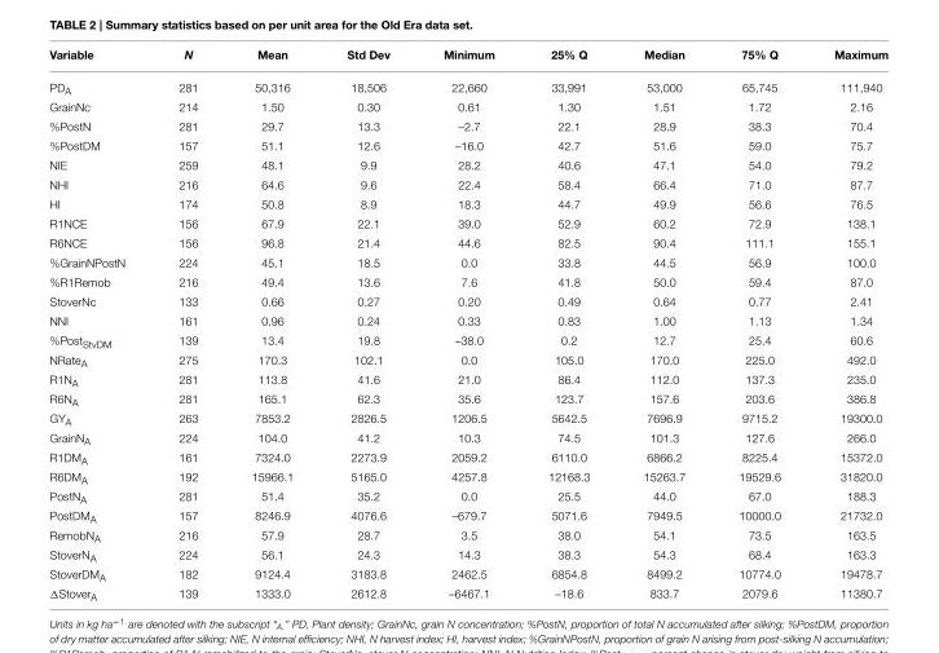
<table><thead><tr><td>Variable</td><td>N</td><td>Mean</td><td>Std Dev</td><td>Minimum</td><td>25% Q</td><td>Median</td><td>75% Q</td><td>Maximum</td></tr></thead><tbody><tr><td>PD<sub>A</sub></td><td>281</td><td>50,316</td><td>18,506</td><td>22,660</td><td>33,991</td><td>53,000</td><td>65,745</td><td>111,940</td></tr><tr><td>GrainNc</td><td>214</td><td>1.50</td><td>0.30</td><td>0.61</td><td>1.30</td><td>1.51</td><td>1.72</td><td>2.16</td></tr><tr><td>%PostN</td><td>281</td><td>29.7</td><td>13.3</td><td>–2.7</td><td>22.1</td><td>28.9</td><td>38.3</td><td>70.4</td></tr><tr><td>%PostDM</td><td>157</td><td>51.1</td><td>12.6</td><td>–16.0</td><td>42.7</td><td>51.6</td><td>59.0</td><td>75.7</td></tr><tr><td>NIE</td><td>259</td><td>48.1</td><td>9.9</td><td>28.2</td><td>40.6</td><td>47.1</td><td>54.0</td><td>79.2</td></tr><tr><td>NHI</td><td>216</td><td>64.6</td><td>9.6</td><td>22.4</td><td>58.4</td><td>66.4</td><td>71.0</td><td>87.7</td></tr><tr><td>HI</td><td>174</td><td>50.8</td><td>8.9</td><td>18.3</td><td>44.7</td><td>49.9</td><td>56.6</td><td>76.5</td></tr><tr><td>R1NCE</td><td>156</td><td>67.9</td><td>22.1</td><td>39.0</td><td>52.9</td><td>60.2</td><td>72.9</td><td>138.1</td></tr><tr><td>R6NCE</td><td>156</td><td>96.8</td><td>21.4</td><td>44.6</td><td>82.5</td><td>90.4</td><td>111.1</td><td>155.1</td></tr><tr><td>%GrainNPostN</td><td>224</td><td>45.1</td><td>18.5</td><td>0.0</td><td>33.8</td><td>44.5</td><td>56.9</td><td>100.0</td></tr><tr><td>%R1Remob</td><td>216</td><td>49.4</td><td>13.6</td><td>7.6</td><td>41.8</td><td>50.0</td><td>59.4</td><td>87.0</td></tr><tr><td>StoverNc</td><td>133</td><td>0.66</td><td>0.27</td><td>0.20</td><td>0.49</td><td>0.64</td><td>0.77</td><td>2.41</td></tr><tr><td>NNI</td><td>161</td><td>0.96</td><td>0.24</td><td>0.33</td><td>0.83</td><td>1.00</td><td>1.13</td><td>1.34</td></tr><tr><td>%Post<sub>StvDM</sub></td><td>139</td><td>13.4</td><td>19.8</td><td>–38.0</td><td>0.2</td><td>12.7</td><td>25.4</td><td>60.6</td></tr><tr><td>NRate<sub>A</sub></td><td>275</td><td>170.3</td><td>102.1</td><td>0.0</td><td>105.0</td><td>170.0</td><td>225.0</td><td>492.0</td></tr><tr><td>R1N<sub>A</sub></td><td>281</td><td>113.8</td><td>41.6</td><td>21.0</td><td>86.4</td><td>112.0</td><td>137.3</td><td>235.0</td></tr><tr><td>R6N<sub>A</sub></td><td>281</td><td>165.1</td><td>62.3</td><td>35.6</td><td>123.7</td><td>157.6</td><td>203.6</td><td>386.8</td></tr><tr><td>GY<sub>A</sub></td><td>263</td><td>7853.2</td><td>2826.5</td><td>1206.5</td><td>5642.5</td><td>7696.9</td><td>9715.2</td><td>19300.0</td></tr><tr><td>GrainN<sub>A</sub></td><td>224</td><td>104.0</td><td>41.2</td><td>10.3</td><td>74.5</td><td>101.3</td><td>127.6</td><td>266.0</td></tr><tr><td>R1DM<sub>A</sub></td><td>161</td><td>7324.0</td><td>2273.9</td><td>2059.2</td><td>6110.0</td><td>6866.2</td><td>8225.4</td><td>15372.0</td></tr><tr><td>R6DM<sub>A</sub></td><td>192</td><td>15966.1</td><td>5165.0</td><td>4257.8</td><td>12168.3</td><td>15263.7</td><td>19529.6</td><td>31820.0</td></tr><tr><td>PostN<sub>A</sub></td><td>281</td><td>51.4</td><td>35.2</td><td>0.0</td><td>25.5</td><td>44.0</td><td>67.0</td><td>188.3</td></tr><tr><td>PostDM<sub>A</sub></td><td>157</td><td>8246.9</td><td>4076.6</td><td>–679.7</td><td>5071.6</td><td>7949.5</td><td>10000.0</td><td>21732.0</td></tr><tr><td>RemobN<sub>A</sub></td><td>216</td><td>57.9</td><td>28.7</td><td>3.5</td><td>38.0</td><td>54.1</td><td>73.5</td><td>163.5</td></tr><tr><td>StoverN<sub>A</sub></td><td>224</td><td>56.1</td><td>24.3</td><td>14.3</td><td>38.3</td><td>54.3</td><td>68.4</td><td>163.3</td></tr><tr><td>StoverDM<sub>A</sub></td><td>182</td><td>9124.4</td><td>3183.8</td><td>2462.5</td><td>6854.8</td><td>8499.2</td><td>10774.0</td><td>19478.7</td></tr><tr><td>ΔStover<sub>A</sub></td><td>139</td><td>1333.0</td><td>2612.8</td><td>–6467.1</td><td>–18.6</td><td>833.7</td><td>2079.6</td><td>11380.7</td></tr></tbody></table>